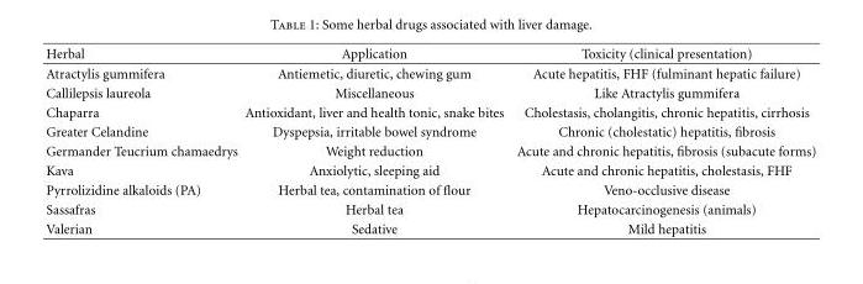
<table><thead><tr><td>Herbal</td><td>Application</td><td>Toxicity (clinical presentation)</td></tr></thead><tbody><tr><td>Atractylis gummifera</td><td>Antiemetic, diuretic, chewing gum</td><td>Acute hepatitis, FHF (fulminant hepatic failure)</td></tr><tr><td>Callilepsis laureola</td><td>Miscellaneous</td><td>Like Atractylis gummifera</td></tr><tr><td>Chaparra</td><td>Antioxidant, liver and health tonic, snake bites</td><td>Cholestasis, cholangitis, chronic hepatitis, cirrhosis</td></tr><tr><td>Greater Celandine</td><td>Dyspepsia, irritable bowel syndrome</td><td>Chronic (cholestatic) hepatitis, fibrosis</td></tr><tr><td>Germander Teucrium chamaedrys</td><td>Weight reduction</td><td>Acute and chronic hepatitis, fibrosis (subacute forms)</td></tr><tr><td>Kava</td><td>Anxiolytic, sleeping aid</td><td>Acute and chronic hepatitis, cholestasis, FHF</td></tr><tr><td>Pyrrolizidine alkaloids (PA)</td><td>Herbal tea, contamination of flour</td><td>Veno-occlusive disease</td></tr><tr><td>Sassafras</td><td>Herbal tea</td><td>Hepatocarcinogenesis (animals)</td></tr><tr><td>Valerian</td><td>Sedative</td><td>Mild hepatitis</td></tr></tbody></table>